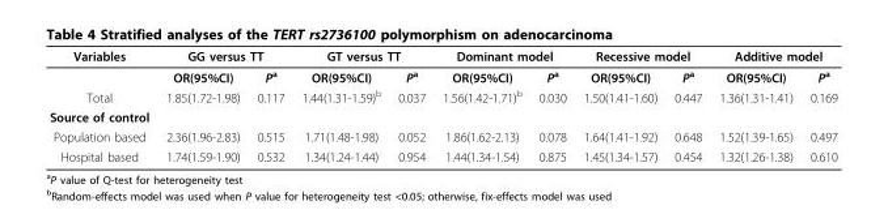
<table><thead><tr><td rowspan="2">Variables</td><td colspan="2">GG versus TT</td><td colspan="2">GT versus TT</td><td colspan="2">Dominant model</td><td colspan="2">Recessive model</td><td colspan="2">Additive model</td></tr><tr><td>OR(95%CI)</td><td>P<sup>a</sup></td><td>OR(95%CI)</td><td>P<sup>a</sup></td><td>OR(95%CI)</td><td>P<sup>a</sup></td><td>OR(95%CI)</td><td>P<sup>a</sup></td><td>OR(95%CI)</td><td>P<sup>a</sup></td></tr></thead><tbody><tr><td>Total</td><td>1.85(1.72-1.98)</td><td>0.117</td><td>1.44(1.31-1.59)<sup>b</sup></td><td>0.037</td><td>1.56(1.42-1.71)<sup>b</sup></td><td>0.030</td><td>1.50(1.41-1.60)</td><td>0.447</td><td>1.36(1.31-1.41)</td><td>0.169</td></tr><tr><td colspan="11">Source of control</td></tr><tr><td>Population based</td><td>2.36(1.96-2.83)</td><td>0.515</td><td>1.71(1.48-1.98)</td><td>0.052</td><td>1.86(1.62-2.13)</td><td>0.078</td><td>1.64(1.41-1.92)</td><td>0.648</td><td>1.52(1.39-1.65)</td><td>0.497</td></tr><tr><td>Hospital based</td><td>1.74(1.59-1.90)</td><td>0.532</td><td>1.34(1.24-1.44)</td><td>0.954</td><td>1.44(1.34-1.54)</td><td>0.875</td><td>1.45(1.34-1.57)</td><td>0.454</td><td>1.32(1.26-1.38)</td><td>0.610</td></tr></tbody></table>